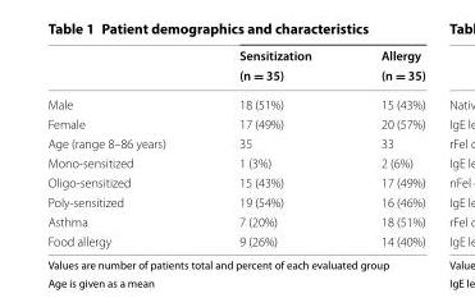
<table><thead><tr><td rowspan="2"></td><td rowspan="2">Sensitization (n = 35)</td><td rowspan="2">Allergy (n = 35)</td></tr><tr></tr></thead><tbody><tr><td>Male</td><td>18 (51%)</td><td>15 (43%)</td></tr><tr><td>Female</td><td>17 (49%)</td><td>20 (57%)</td></tr><tr><td>Age (range 8–86 years)</td><td>35</td><td>33</td></tr><tr><td>Mono-sensitized</td><td>1 (3%)</td><td>2 (6%)</td></tr><tr><td>Oligo-sensitized</td><td>15 (43%)</td><td>17 (49%)</td></tr><tr><td>Poly-sensitized</td><td>19 (54%)</td><td>16 (46%)</td></tr><tr><td>Asthma</td><td>7 (20%)</td><td>18 (51%)</td></tr><tr><td>Food allergy</td><td>9 (26%)</td><td>14 (40%)</td></tr></tbody></table>